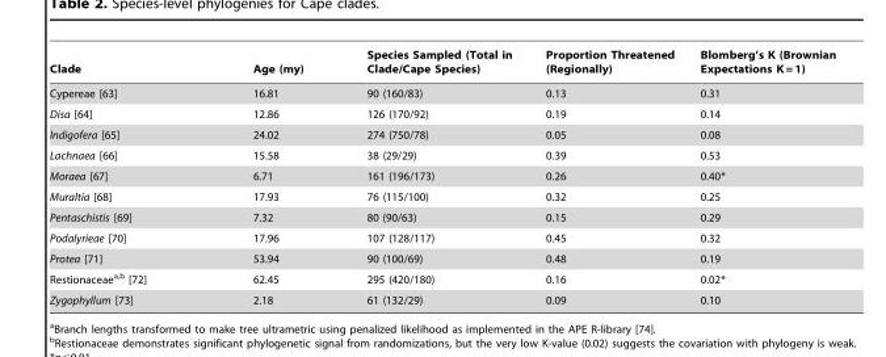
<table><thead><tr><td>Clade</td><td>Age (my)</td><td>Species Sampled (Total in Clade/Cape Species)</td><td>Proportion Threatened (Regionally)</td><td>Blomberg’s K (Brownian Expectations K = 1)</td></tr></thead><tbody><tr><td>Cypereae [63]</td><td>16.81</td><td>90 (160/83)</td><td>0.13</td><td>0.31</td></tr><tr><td>Disa [64]</td><td>12.86</td><td>126 (170/92)</td><td>0.19</td><td>0.14</td></tr><tr><td>Indigofera [65]</td><td>24.02</td><td>274 (750/78)</td><td>0.05</td><td>0.08</td></tr><tr><td>Lachnaea [66]</td><td>15.58</td><td>38 (29/29)</td><td>0.39</td><td>0.53</td></tr><tr><td>Moraea [67]</td><td>6.71</td><td>161 (196/173)</td><td>0.26</td><td>0.40*</td></tr><tr><td>Muraltia [68]</td><td>17.93</td><td>76 (115/100)</td><td>0.32</td><td>0.25</td></tr><tr><td>Pentaschistis [69]</td><td>7.32</td><td>80 (90/63)</td><td>0.15</td><td>0.29</td></tr><tr><td>Podalyrieae [70]</td><td>17.96</td><td>107 (128/117)</td><td>0.45</td><td>0.32</td></tr><tr><td>Protea [71]</td><td>53.94</td><td>90 (100/69)</td><td>0.48</td><td>0.19</td></tr><tr><td>Restionaceae<sup>a,</sup>b [72]</td><td>62.45</td><td>295 (420/180)</td><td>0.16</td><td>0.02*</td></tr><tr><td>Zygophyllum [73]</td><td>2.18</td><td>61 (132/29)</td><td>0.09</td><td>0.10</td></tr></tbody></table>